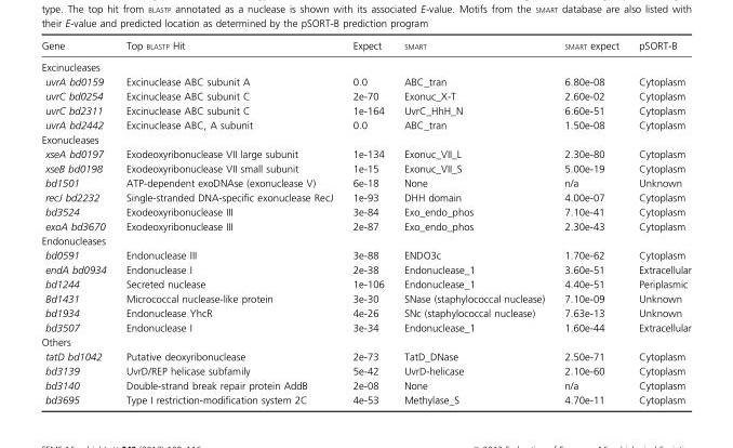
<table><thead><tr><td>Gene</td><td>Top BLASTP Hit</td><td>Expect</td><td>SMART</td><td>SMART expect</td><td>pSORT-B</td></tr></thead><tbody><tr><td colspan="6">Excinucleases</td></tr><tr><td>uvrA bd0159</td><td>Excinuclease ABC subunit A</td><td>0.0</td><td>ABC_tran</td><td>6.80e-08</td><td>Cytoplasm</td></tr><tr><td>uvrC bd0254</td><td>Excinuclease ABC subunit C</td><td>2e-70</td><td>Exonuc_X-T</td><td>2.60e-02</td><td>Cytoplasm</td></tr><tr><td>uvrC bd2311</td><td>Excinuclease ABC subunit C</td><td>1e-164</td><td>UvrC_HhH_N</td><td>6.60e-51</td><td>Cytoplasm</td></tr><tr><td>uvrA bd2442</td><td>Excinuclease ABC, A subunit</td><td>0.0</td><td>ABC_tran</td><td>1.50e-08</td><td>Cytoplasm</td></tr><tr><td colspan="6">Exonucleases</td></tr><tr><td>xseA bd0197</td><td>Exodeoxyribonuclease VII large subunit</td><td>1e-134</td><td>Exonuc_VII_L</td><td>2.30e-80</td><td>Cytoplasm</td></tr><tr><td>xseB bd0198</td><td>Exodeoxyribonuclease VII small subunit</td><td>1e-15</td><td>Exonuc_VII_S</td><td>5.00e-19</td><td>Cytoplasm</td></tr><tr><td>bd1501</td><td>ATP-dependent exoDNAse (exonuclease V)</td><td>6e-18</td><td>None</td><td>n/a</td><td>Unknown</td></tr><tr><td>recJ bd2232</td><td>Single-stranded DNA-specific exonuclease RecJ</td><td>1e-93</td><td>DHH domain</td><td>4.00e-07</td><td>Cytoplasm</td></tr><tr><td>bd3524</td><td>Exodeoxyribonuclease III</td><td>3e-84</td><td>Exo_endo_phos</td><td>7.10e-41</td><td>Cytoplasm</td></tr><tr><td>exoA bd3670</td><td>Exodeoxyribonuclease III</td><td>2e-87</td><td>Exo_endo_phos</td><td>2.30e-43</td><td>Cytoplasm</td></tr><tr><td colspan="6">Endonucleases</td></tr><tr><td>bd0591</td><td>Endonuclease III</td><td>3e-88</td><td>ENDO3c</td><td>1.70e-62</td><td>Cytoplasm</td></tr><tr><td>endA bd0934</td><td>Endonuclease I</td><td>2e-38</td><td>Endonuclease_1</td><td>3.60e-51</td><td>Extracellular</td></tr><tr><td>bd1244</td><td>Secreted nuclease</td><td>1e-106</td><td>Endonuclease_1</td><td>4.40e-51</td><td>Periplasmic</td></tr><tr><td>Bd1431</td><td>Micrococcal nuclease-like protein</td><td>3e-30</td><td>SNase (staphylococcal nuclease)</td><td>7.10e-09</td><td>Unknown</td></tr><tr><td>bd1934</td><td>Endonuclease YhcR</td><td>4e-26</td><td>SNc (staphylococcal nuclease)</td><td>7.63e-13</td><td>Unknown</td></tr><tr><td>bd3507</td><td>Endonuclease I</td><td>3e-34</td><td>Endonuclease_1</td><td>1.60e-44</td><td>Extracellular</td></tr><tr><td colspan="6">Others</td></tr><tr><td>tatD bd1042</td><td>Putative deoxyribonuclease</td><td>2e-73</td><td>TatD_DNase</td><td>2.50e-71</td><td>Cytoplasm</td></tr><tr><td>bd3139</td><td>UvrD/REP helicase subfamily</td><td>5e-42</td><td>UvrD-helicase</td><td>2.10e-60</td><td>Cytoplasm</td></tr><tr><td>bd3140</td><td>Double-strand break repair protein AddB</td><td>2e-08</td><td>None</td><td>n/a</td><td>Cytoplasm</td></tr><tr><td>bd3695</td><td>Type I restriction-modification system 2C</td><td>4e-53</td><td>Methylase_S</td><td>4.70e-11</td><td>Cytoplasm</td></tr></tbody></table>